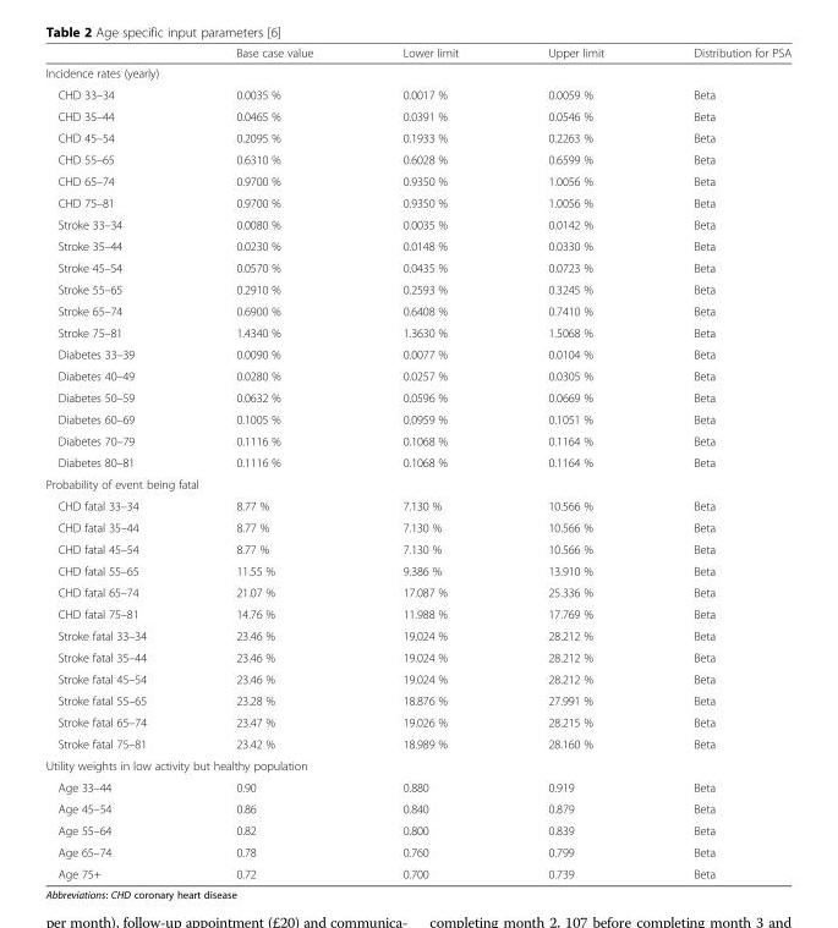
<table><thead><tr><td></td><td>Base case value</td><td>Lower limit</td><td>Upper limit</td><td>Distribution for PSA</td></tr></thead><tbody><tr><td colspan="5">Incidence rates (yearly)</td></tr><tr><td>CHD 33–34</td><td>0.0035 %</td><td>0.0017 %</td><td>0.0059 %</td><td>Beta</td></tr><tr><td>CHD 35–44</td><td>0.0465 %</td><td>0.0391 %</td><td>0.0546 %</td><td>Beta</td></tr><tr><td>CHD 45–54</td><td>0.2095 %</td><td>0.1933 %</td><td>0.2263 %</td><td>Beta</td></tr><tr><td>CHD 55–65</td><td>0.6310 %</td><td>0.6028 %</td><td>0.6599 %</td><td>Beta</td></tr><tr><td>CHD 65–74</td><td>0.9700 %</td><td>0.9350 %</td><td>1.0056 %</td><td>Beta</td></tr><tr><td>CHD 75–81</td><td>0.9700 %</td><td>0.9350 %</td><td>1.0056 %</td><td>Beta</td></tr><tr><td>Stroke 33–34</td><td>0.0080 %</td><td>0.0035 %</td><td>0.0142 %</td><td>Beta</td></tr><tr><td>Stroke 35–44</td><td>0.0230 %</td><td>0.0148 %</td><td>0.0330 %</td><td>Beta</td></tr><tr><td>Stroke 45–54</td><td>0.0570 %</td><td>0.0435 %</td><td>0.0723 %</td><td>Beta</td></tr><tr><td>Stroke 55–65</td><td>0.2910 %</td><td>0.2593 %</td><td>0.3245 %</td><td>Beta</td></tr><tr><td>Stroke 65–74</td><td>0.6900 %</td><td>0.6408 %</td><td>0.7410 %</td><td>Beta</td></tr><tr><td>Stroke 75–81</td><td>1.4340 %</td><td>1.3630 %</td><td>1.5068 %</td><td>Beta</td></tr><tr><td>Diabetes 33–39</td><td>0.0090 %</td><td>0.0077 %</td><td>0.0104 %</td><td>Beta</td></tr><tr><td>Diabetes 40–49</td><td>0.0280 %</td><td>0.0257 %</td><td>0.0305 %</td><td>Beta</td></tr><tr><td>Diabetes 50–59</td><td>0.0632 %</td><td>0.0596 %</td><td>0.0669 %</td><td>Beta</td></tr><tr><td>Diabetes 60–69</td><td>0.1005 %</td><td>0.0959 %</td><td>0.1051 %</td><td>Beta</td></tr><tr><td>Diabetes 70–79</td><td>0.1116 %</td><td>0.1068 %</td><td>0.1164 %</td><td>Beta</td></tr><tr><td>Diabetes 80–81</td><td>0.1116 %</td><td>0.1068 %</td><td>0.1164 %</td><td>Beta</td></tr><tr><td colspan="5">Probability of event being fatal</td></tr><tr><td>CHD fatal 33–34</td><td>8.77 %</td><td>7.130 %</td><td>10.566 %</td><td>Beta</td></tr><tr><td>CHD fatal 35–44</td><td>8.77 %</td><td>7.130 %</td><td>10.566 %</td><td>Beta</td></tr><tr><td>CHD fatal 45–54</td><td>8.77 %</td><td>7.130 %</td><td>10.566 %</td><td>Beta</td></tr><tr><td>CHD fatal 55–65</td><td>11.55 %</td><td>9.386 %</td><td>13.910 %</td><td>Beta</td></tr><tr><td>CHD fatal 65–74</td><td>21.07 %</td><td>17.087 %</td><td>25.336 %</td><td>Beta</td></tr><tr><td>CHD fatal 75–81</td><td>14.76 %</td><td>11.988 %</td><td>17.769 %</td><td>Beta</td></tr><tr><td>Stroke fatal 33–34</td><td>23.46 %</td><td>19.024 %</td><td>28.212 %</td><td>Beta</td></tr><tr><td>Stroke fatal 35–44</td><td>23.46 %</td><td>19.024 %</td><td>28.212 %</td><td>Beta</td></tr><tr><td>Stroke fatal 45–54</td><td>23.46 %</td><td>19.024 %</td><td>28.212 %</td><td>Beta</td></tr><tr><td>Stroke fatal 55–65</td><td>23.28 %</td><td>18.876 %</td><td>27.991 %</td><td>Beta</td></tr><tr><td>Stroke fatal 65–74</td><td>23.47 %</td><td>19.026 %</td><td>28.215 %</td><td>Beta</td></tr><tr><td>Stroke fatal 75–81</td><td>23.42 %</td><td>18.989 %</td><td>28.160 %</td><td>Beta</td></tr><tr><td colspan="5">Utility weights in low activity but healthy population</td></tr><tr><td>Age 33–44</td><td>0.90</td><td>0.880</td><td>0.919</td><td>Beta</td></tr><tr><td>Age 45–54</td><td>0.86</td><td>0.840</td><td>0.879</td><td>Beta</td></tr><tr><td>Age 55–64</td><td>0.82</td><td>0.800</td><td>0.839</td><td>Beta</td></tr><tr><td>Age 65–74</td><td>0.78</td><td>0.760</td><td>0.799</td><td>Beta</td></tr><tr><td>Age 75+</td><td>0.72</td><td>0.700</td><td>0.739</td><td>Beta</td></tr></tbody></table>